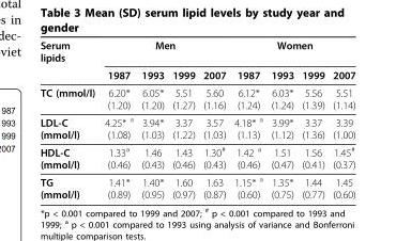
<table><thead><tr><td rowspan="2">Serum lipids</td><td colspan="4">Men</td><td colspan="4">Women</td></tr><tr><td>1987</td><td>1993</td><td>1999</td><td>2007</td><td>1987</td><td>1993</td><td>1999</td><td>2007</td></tr></thead><tbody><tr><td>TC (mmol/l)</td><td>6.20* (1.20)</td><td>6.05* (1.20)</td><td>5.51 (1.27)</td><td>5.60 (1.16)</td><td>6.12* (1.24)</td><td>6.03* (1.24)</td><td>5.56 (1.39)</td><td>5.51 (1.14)</td></tr><tr><td>LDL-C (mmol/l)</td><td>4.25* <sup>a</sup> (1.08)</td><td>3.94* (1.03)</td><td>3.37 (1.22)</td><td>3.57 (1.03)</td><td>4.18* <sup>a</sup> (1.13)</td><td>3.99* (1.12)</td><td>3.37 (1.36)</td><td>3.39 (1.00)</td></tr><tr><td>HDL-C (mmol/l)</td><td>1.33<sup>a</sup> (0.46)</td><td>1.46 (0.43)</td><td>1.43 (0.46)</td><td>1.30<sup>#</sup> (0.43)</td><td>1.42 <sup>a</sup> (0.46)</td><td>1.51 (0.47)</td><td>1.56 (0.41)</td><td>1.45<sup>#</sup> (0.37)</td></tr><tr><td>TG (mmol/l)</td><td>1.41* (0.89)</td><td>1.40* (0.95)</td><td>1.60 (0.97)</td><td>1.63 (0.87)</td><td>1.15* <sup>a</sup> (0.60)</td><td>1.35* (0.75)</td><td>1.44 (0.77)</td><td>1.45 (0.60)</td></tr></tbody></table>